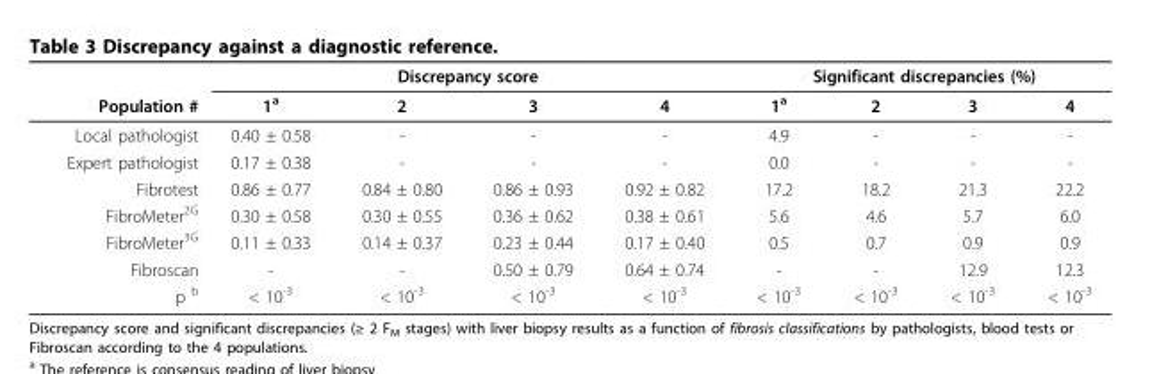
<table><thead><tr><td rowspan="2">Population #</td><td colspan="4">Discrepancy score</td><td colspan="4">Significant discrepancies (%)</td></tr><tr><td>1<sup>a</sup></td><td>2</td><td>3</td><td>4</td><td>1<sup>a</sup></td><td>2</td><td>3</td><td>4</td></tr></thead><tbody><tr><td>Local pathologist</td><td>0.40 ± 0.58</td><td>-</td><td>-</td><td>-</td><td>4.9</td><td>-</td><td>-</td><td>-</td></tr><tr><td>Expert pathologist</td><td>0.17 ± 0.38</td><td>-</td><td>-</td><td>-</td><td>0.0</td><td>-</td><td>-</td><td>-</td></tr><tr><td>Fibrotest</td><td>0.86 ± 0.77</td><td>0.84 ± 0.80</td><td>0.86 ± 0.93</td><td>0.92 ± 0.82</td><td>17.2</td><td>18.2</td><td>21.3</td><td>22.2</td></tr><tr><td>FibroMeter<sup>2G</sup></td><td>0.30 ± 0.58</td><td>0.30 ± 0.55</td><td>0.36 ± 0.62</td><td>0.38 ± 0.61</td><td>5.6</td><td>4.6</td><td>5.7</td><td>6.0</td></tr><tr><td>FibroMeter<sup>3G</sup></td><td>0.11 ± 0.33</td><td>0.14 ± 0.37</td><td>0.23 ± 0.44</td><td>0.17 ± 0.40</td><td>0.5</td><td>0.7</td><td>0.9</td><td>0.9</td></tr><tr><td>Fibroscan</td><td>-</td><td>-</td><td>0.50 ± 0.79</td><td>0.64 ± 0.74</td><td>-</td><td>-</td><td>12.9</td><td>12.3</td></tr><tr><td>p <sup>b</sup></td><td>&lt; 10<sup>-3</sup></td><td>&lt; 10<sup>-3</sup></td><td>&lt; 10<sup>-3</sup></td><td>&lt; 10<sup>-3</sup></td><td>&lt; 10<sup>-3</sup></td><td>&lt; 10<sup>-3</sup></td><td>&lt; 10<sup>-3</sup></td><td>&lt; 10<sup>-3</sup></td></tr></tbody></table>